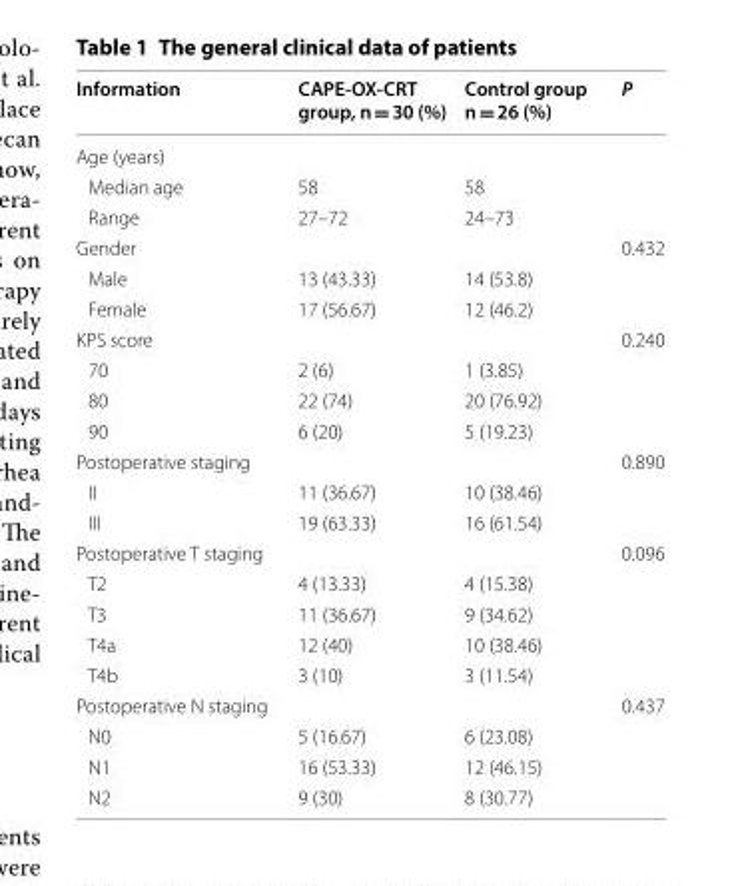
<table><thead><tr><td>Information</td><td>CAPE-OX-CRT group, n = 30 (%)</td><td>Control group n = 26 (%)</td><td>P</td></tr></thead><tbody><tr><td colspan="4">Age (years)</td></tr><tr><td>Median age</td><td>58</td><td>58</td><td></td></tr><tr><td>Range</td><td>27–72</td><td>24–73</td><td></td></tr><tr><td colspan="3">Gender</td><td>0.432</td></tr><tr><td>Male</td><td>13 (43.33)</td><td>14 (53.8)</td><td></td></tr><tr><td>Female</td><td>17 (56.67)</td><td>12 (46.2)</td><td></td></tr><tr><td colspan="3">KPS score</td><td>0.240</td></tr><tr><td>70</td><td>2 (6)</td><td>1 (3.85)</td><td></td></tr><tr><td>80</td><td>22 (74)</td><td>20 (76.92)</td><td></td></tr><tr><td>90</td><td>6 (20)</td><td>5 (19.23)</td><td></td></tr><tr><td colspan="3">Postoperative staging</td><td>0.890</td></tr><tr><td>II</td><td>11 (36.67)</td><td>10 (38.46)</td><td></td></tr><tr><td>III</td><td>19 (63.33)</td><td>16 (61.54)</td><td></td></tr><tr><td colspan="3">Postoperative T staging</td><td>0.096</td></tr><tr><td>T2</td><td>4 (13.33)</td><td>4 (15.38)</td><td></td></tr><tr><td>T3</td><td>11 (36.67)</td><td>9 (34.62)</td><td></td></tr><tr><td>T4a</td><td>12 (40)</td><td>10 (38.46)</td><td></td></tr><tr><td>T4b</td><td>3 (10)</td><td>3 (11.54)</td><td></td></tr><tr><td colspan="3">Postoperative N staging</td><td>0.437</td></tr><tr><td>N0</td><td>5 (16.67)</td><td>6 (23.08)</td><td></td></tr><tr><td>N1</td><td>16 (53.33)</td><td>12 (46.15)</td><td></td></tr><tr><td>N2</td><td>9 (30)</td><td>8 (30.77)</td><td></td></tr></tbody></table>